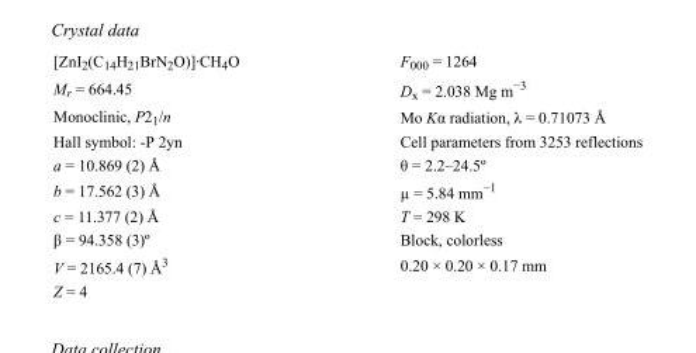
<table><tbody><tr><td>[ZnI<sub>2</sub>(C<sub>14</sub>H<sub>21</sub>BrN<sub>2</sub>O)]·CH<sub>4</sub>O</td><td>F000 = 1264</td></tr><tr><td>M<sub>r</sub> = 664.45</td><td>D<sub>x</sub> = 2.038 Mg m<sup>−3</sup></td></tr><tr><td>Monoclinic, P2<sub>1</sub>/n</td><td>Mo Kα radiation, λ = 0.71073 Å</td></tr><tr><td>Hall symbol: -P 2yn</td><td>Cell parameters from 3253 reflections</td></tr><tr><td>a = 10.869 (2) Å</td><td>θ = 2.2–24.5º</td></tr><tr><td>b = 17.562 (3) Å</td><td>µ = 5.84 mm<sup>−1</sup></td></tr><tr><td>c = 11.377 (2) Å</td><td>T = 298 K</td></tr><tr><td>β = 94.358 (3)º</td><td>Block, colorless</td></tr><tr><td>V = 2165.4 (7) Å<sup>3</sup></td><td>0.20 × 0.20 × 0.17 mm</td></tr><tr><td>Z = 4</td><td></td></tr></tbody></table>